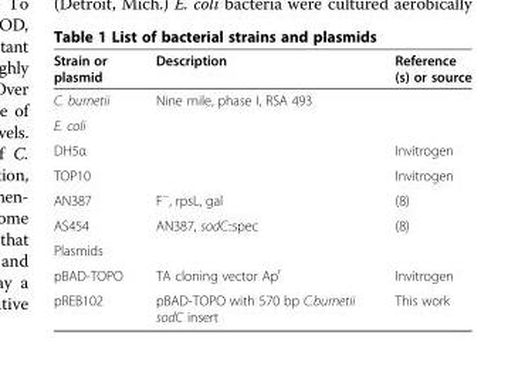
<table><thead><tr><td>Strain or plasmid</td><td>Description</td><td>Reference (s) or source</td></tr></thead><tbody><tr><td>C. burnetii</td><td>Nine mile, phase I, RSA 493</td><td></td></tr><tr><td colspan="3">E. coli</td></tr><tr><td>DH5α</td><td></td><td>Invitrogen</td></tr><tr><td>TOP10</td><td></td><td>Invitrogen</td></tr><tr><td>AN387</td><td>F<sup>−</sup>, rpsL, gal</td><td>(8)</td></tr><tr><td>AS454</td><td>AN387, sodC::spec</td><td>(8)</td></tr><tr><td colspan="3">Plasmids</td></tr><tr><td>pBAD-TOPO</td><td>TA cloning vector Ap<sup>r</sup></td><td>Invitrogen</td></tr><tr><td>pREB102</td><td>pBAD-TOPO with 570 bp C.burnetii sodC insert</td><td>This work</td></tr></tbody></table>